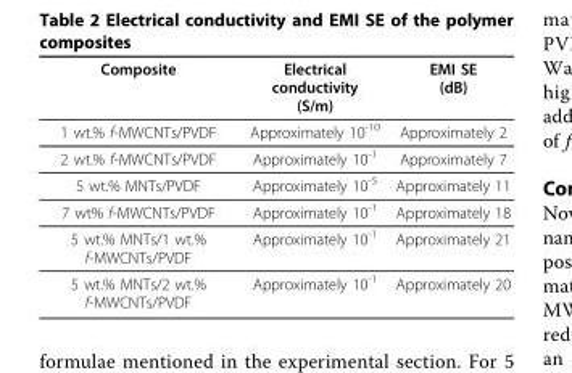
<table><thead><tr><td>Composite</td><td>Electrical conductivity (S/m)</td><td>EMI SE (dB)</td></tr></thead><tbody><tr><td>1 wt.% f-MWCNTs/PVDF</td><td>Approximately 10<sup>-10</sup></td><td>Approximately 2</td></tr><tr><td>2 wt.% f-MWCNTs/PVDF</td><td>Approximately 10<sup>-1</sup></td><td>Approximately 7</td></tr><tr><td>5 wt.% MNTs/PVDF</td><td>Approximately 10<sup>-5</sup></td><td>Approximately 11</td></tr><tr><td>7 wt% f-MWCNTs/PVDF</td><td>Approximately 10<sup>-1</sup></td><td>Approximately 18</td></tr><tr><td>5 wt.% MNTs/1 wt.% f-MWCNTs/PVDF</td><td>Approximately 10<sup>-1</sup></td><td>Approximately 21</td></tr><tr><td>5 wt.% MNTs/2 wt.% f-MWCNTs/PVDF</td><td>Approximately 10<sup>-1</sup></td><td>Approximately 20</td></tr></tbody></table>